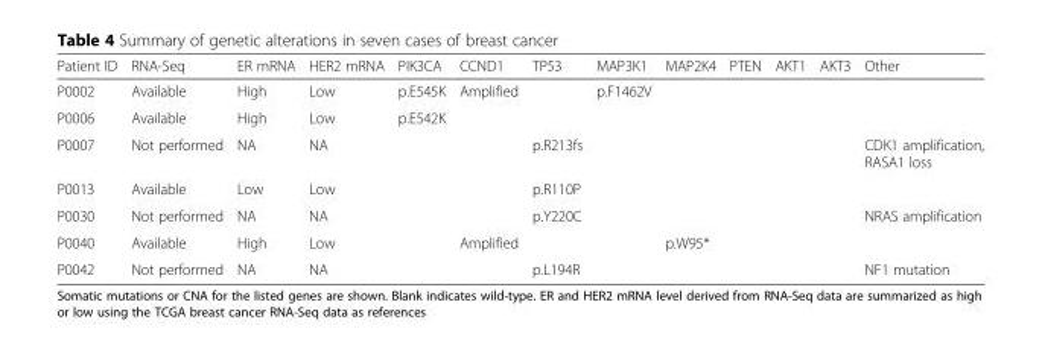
<table><thead><tr><td>Patient ID</td><td>RNA-Seq</td><td>ER mRNA</td><td>HER2 mRNA</td><td>PIK3CA</td><td>CCND1</td><td>TP53</td><td>MAP3K1</td><td>MAP2K4</td><td>PTEN</td><td>AKT1</td><td>AKT3</td><td>Other</td></tr></thead><tbody><tr><td>P0002</td><td>Available</td><td>High</td><td>Low</td><td>p.E545K</td><td>Amplified</td><td></td><td>p.F1462V</td><td></td><td></td><td></td><td></td><td></td></tr><tr><td>P0006</td><td>Available</td><td>High</td><td>Low</td><td>p.E542K</td><td></td><td></td><td></td><td></td><td></td><td></td><td></td><td></td></tr><tr><td>P0007</td><td>Not performed</td><td>NA</td><td>NA</td><td></td><td></td><td>p.R213fs</td><td></td><td></td><td></td><td></td><td></td><td>CDK1 amplification, RASA1 loss</td></tr><tr><td>P0013</td><td>Available</td><td>Low</td><td>Low</td><td></td><td></td><td>p.R110P</td><td></td><td></td><td></td><td></td><td></td><td></td></tr><tr><td>P0030</td><td>Not performed</td><td>NA</td><td>NA</td><td></td><td></td><td>p.Y220C</td><td></td><td></td><td></td><td></td><td></td><td>NRAS amplification</td></tr><tr><td>P0040</td><td>Available</td><td>High</td><td>Low</td><td></td><td>Amplified</td><td></td><td></td><td>p.W95*</td><td></td><td></td><td></td><td></td></tr><tr><td>P0042</td><td>Not performed</td><td>NA</td><td>NA</td><td></td><td></td><td>p.L194R</td><td></td><td></td><td></td><td></td><td></td><td>NF1 mutation</td></tr></tbody></table>